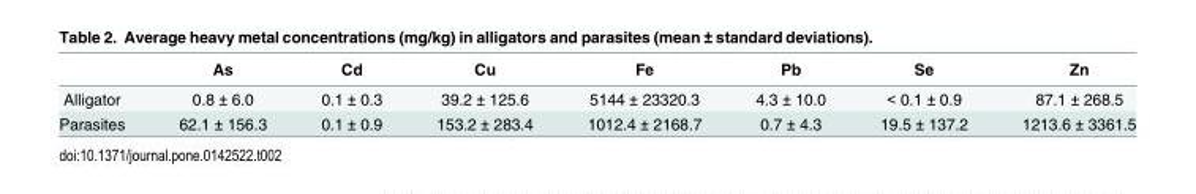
<table><thead><tr><td></td><td>As</td><td>Cd</td><td>Cu</td><td>Fe</td><td>Pb</td><td>Se</td><td>Zn</td></tr></thead><tbody><tr><td>Alligator</td><td>0.8 ± 6.0</td><td>0.1 ± 0.3</td><td>39.2 ± 125.6</td><td>5144 ± 23320.3</td><td>4.3 ± 10.0</td><td>&lt; 0.1 ± 0.9</td><td>87.1 ± 268.5</td></tr><tr><td>Parasites</td><td>62.1 ± 156.3</td><td>0.1 ± 0.9</td><td>153.2 ± 283.4</td><td>1012.4 ± 2168.7</td><td>0.7 ± 4.3</td><td>19.5 ± 137.2</td><td>1213.6 ± 3361.5</td></tr></tbody></table>